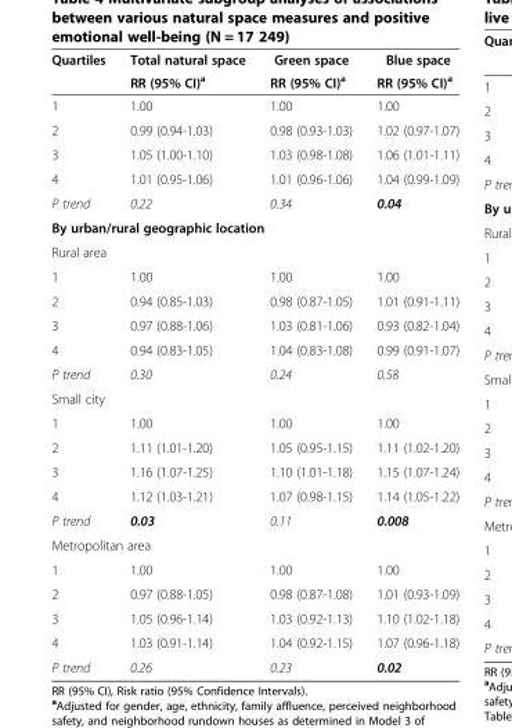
<table><thead><tr><td rowspan="2">Quartiles</td><td rowspan="2">Total natural space RR (95% CI)<sup>a</sup></td><td rowspan="2">Green space RR (95% CI)<sup>a</sup></td><td rowspan="2">Blue space RR (95% CI)<sup>a</sup></td></tr><tr></tr></thead><tbody><tr><td>1</td><td>1.00</td><td>1.00</td><td>1.00</td></tr><tr><td>2</td><td>0.99 (0.94-1.03)</td><td>0.98 (0.93-1.03)</td><td>1.02 (0.97-1.07)</td></tr><tr><td>3</td><td>1.05 (1.00-1.10)</td><td>1.03 (0.98-1.08)</td><td>1.06 (1.01-1.11)</td></tr><tr><td>4</td><td>1.01 (0.95-1.06)</td><td>1.01 (0.96-1.06)</td><td>1.04 (0.99-1.09)</td></tr><tr><td>P trend</td><td>0.22</td><td>0.34</td><td>0.04</td></tr><tr><td colspan="4">By urban/rural geographic location</td></tr><tr><td colspan="4">Rural area</td></tr><tr><td>1</td><td>1.00</td><td>1.00</td><td>1.00</td></tr><tr><td>2</td><td>0.94 (0.85-1.03)</td><td>0.98 (0.87-1.05)</td><td>1.01 (0.91-1.11)</td></tr><tr><td>3</td><td>0.97 (0.88-1.06)</td><td>1.03 (0.81-1.06)</td><td>0.93 (0.82-1.04)</td></tr><tr><td>4</td><td>0.94 (0.83-1.05)</td><td>1.04 (0.83-1.08)</td><td>0.99 (0.91-1.07)</td></tr><tr><td>P trend</td><td>0.30</td><td>0.24</td><td>0.58</td></tr><tr><td colspan="4">Small city</td></tr><tr><td>1</td><td>1.00</td><td>1.00</td><td>1.00</td></tr><tr><td>2</td><td>1.11 (1.01-1.20)</td><td>1.05 (0.95-1.15)</td><td>1.11 (1.02-1.20)</td></tr><tr><td>3</td><td>1.16 (1.07-1.25)</td><td>1.10 (1.01-1.18)</td><td>1.15 (1.07-1.24)</td></tr><tr><td>4</td><td>1.12 (1.03-1.21)</td><td>1.07 (0.98-1.15)</td><td>1.14 (1.05-1.22)</td></tr><tr><td>P trend</td><td>0.03</td><td>0.11</td><td>0.008</td></tr><tr><td colspan="4">Metropolitan area</td></tr><tr><td>1</td><td>1.00</td><td>1.00</td><td>1.00</td></tr><tr><td>2</td><td>0.97 (0.88-1.05)</td><td>0.98 (0.87-1.08)</td><td>1.01 (0.93-1.09)</td></tr><tr><td>3</td><td>1.05 (0.96-1.14)</td><td>1.03 (0.92-1.13)</td><td>1.10 (1.02-1.18)</td></tr><tr><td>4</td><td>1.03 (0.91-1.14)</td><td>1.04 (0.92-1.15)</td><td>1.07 (0.96-1.18)</td></tr><tr><td>P trend</td><td>0.26</td><td>0.23</td><td>0.02</td></tr></tbody></table>